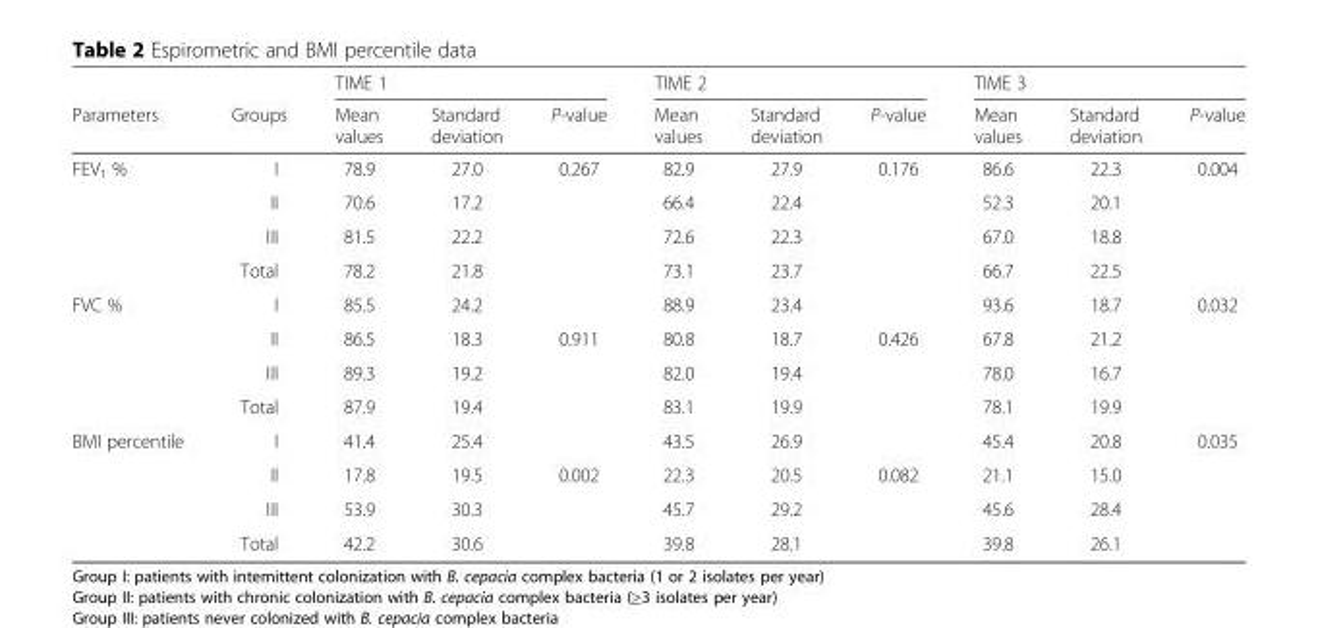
<table><thead><tr><td rowspan="2">Parameters</td><td rowspan="2">Groups</td><td colspan="3">TIME 1</td><td colspan="3">TIME 2</td><td colspan="3">TIME 3</td></tr><tr><td>Mean values</td><td>Standard deviation</td><td>P-value</td><td>Mean values</td><td>Standard deviation</td><td>P-value</td><td>Mean values</td><td>Standard deviation</td><td>P-value</td></tr></thead><tbody><tr><td rowspan="4">FEV<sub>1</sub> %</td><td>I</td><td>78.9</td><td>27.0</td><td rowspan="3">0.267</td><td>82.9</td><td>27.9</td><td rowspan="3">0.176</td><td>86.6</td><td>22.3</td><td rowspan="3">0.004</td></tr><tr><td>II</td><td>70.6</td><td>17.2</td><td>66.4</td><td>22.4</td><td>52.3</td><td>20.1</td></tr><tr><td>III</td><td>81.5</td><td>22.2</td><td>72.6</td><td>22.3</td><td>67.0</td><td>18.8</td></tr><tr><td>Total</td><td>78.2</td><td>21.8</td><td></td><td>73.1</td><td>23.7</td><td></td><td>66.7</td><td>22.5</td><td></td></tr><tr><td rowspan="4">FVC %</td><td>I</td><td>85.5</td><td>24.2</td><td></td><td>88.9</td><td>23.4</td><td></td><td>93.6</td><td>18.7</td><td rowspan="3">0.032</td></tr><tr><td>II</td><td>86.5</td><td>18.3</td><td>0.911</td><td>80.8</td><td>18.7</td><td>0.426</td><td>67.8</td><td>21.2</td></tr><tr><td>III</td><td>89.3</td><td>19.2</td><td></td><td>82.0</td><td>19.4</td><td></td><td>78.0</td><td>16.7</td></tr><tr><td>Total</td><td>87.9</td><td>19.4</td><td></td><td>83.1</td><td>19.9</td><td></td><td>78.1</td><td>19.9</td><td></td></tr><tr><td rowspan="4">BMI percentile</td><td>I</td><td>41.4</td><td>25.4</td><td></td><td>43.5</td><td>26.9</td><td></td><td>45.4</td><td>20.8</td><td rowspan="3">0.035</td></tr><tr><td>II</td><td>17.8</td><td>19.5</td><td>0.002</td><td>22.3</td><td>20.5</td><td>0.082</td><td>21.1</td><td>15.0</td></tr><tr><td>III</td><td>53.9</td><td>30.3</td><td></td><td>45.7</td><td>29.2</td><td></td><td>45.6</td><td>28.4</td></tr><tr><td>Total</td><td>42.2</td><td>30.6</td><td></td><td>39.8</td><td>28.1</td><td></td><td>39.8</td><td>26.1</td><td></td></tr></tbody></table>